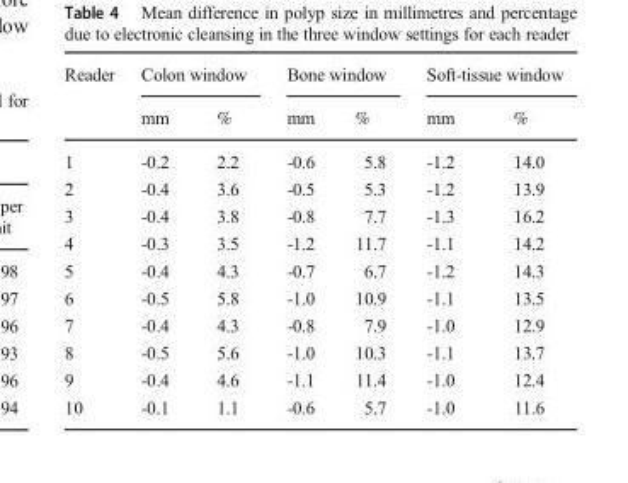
<table><thead><tr><td rowspan="2">Reader</td><td colspan="2">Colon window</td><td colspan="2">Bone window</td><td colspan="2">Soft-tissue window</td></tr><tr><td>mm</td><td>%</td><td>mm</td><td>%</td><td>mm</td><td>%</td></tr></thead><tbody><tr><td>1</td><td>-0.2</td><td>2.2</td><td>-0.6</td><td>5.8</td><td>-1.2</td><td>14.0</td></tr><tr><td>2</td><td>-0.4</td><td>3.6</td><td>-0.5</td><td>5.3</td><td>-1.2</td><td>13.9</td></tr><tr><td>3</td><td>-0.4</td><td>3.8</td><td>-0.8</td><td>7.7</td><td>-1.3</td><td>16.2</td></tr><tr><td>4</td><td>-0.3</td><td>3.5</td><td>-1.2</td><td>11.7</td><td>-1.1</td><td>14.2</td></tr><tr><td>5</td><td>-0.4</td><td>4.3</td><td>-0.7</td><td>6.7</td><td>-1.2</td><td>14.3</td></tr><tr><td>6</td><td>-0.5</td><td>5.8</td><td>-1.0</td><td>10.9</td><td>-1.1</td><td>13.5</td></tr><tr><td>7</td><td>-0.4</td><td>4.3</td><td>-0.8</td><td>7.9</td><td>-1.0</td><td>12.9</td></tr><tr><td>8</td><td>-0.5</td><td>5.6</td><td>-1.0</td><td>10.3</td><td>-1.1</td><td>13.7</td></tr><tr><td>9</td><td>-0.4</td><td>4.6</td><td>-1.1</td><td>11.4</td><td>-1.0</td><td>12.4</td></tr><tr><td>10</td><td>-0.1</td><td>1.1</td><td>-0.6</td><td>5.7</td><td>-1.0</td><td>11.6</td></tr></tbody></table>